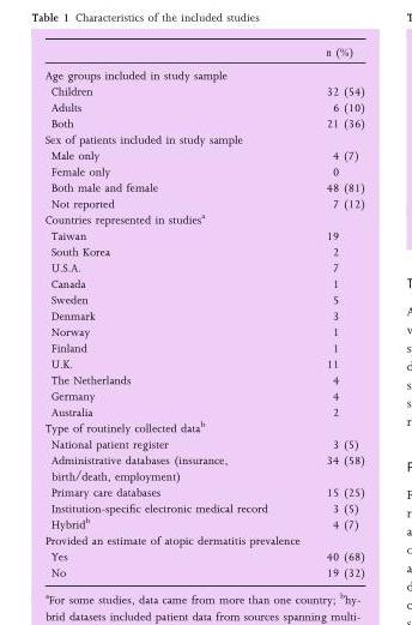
<table><thead><tr><td></td><td>n (%)</td></tr></thead><tbody><tr><td colspan="2">Age groups included in study sample</td></tr><tr><td>Children</td><td>32 (54)</td></tr><tr><td>Adults</td><td>6 (10)</td></tr><tr><td>Both</td><td>21 (36)</td></tr><tr><td colspan="2">Sex of patients included in study sample</td></tr><tr><td>Male only</td><td>4 (7)</td></tr><tr><td>Female only</td><td>0</td></tr><tr><td>Both male and female</td><td>48 (81)</td></tr><tr><td>Not reported</td><td>7 (12)</td></tr><tr><td colspan="2">Countries represented in studies<sup>a</sup></td></tr><tr><td>Taiwan</td><td>19</td></tr><tr><td>South Korea</td><td>2</td></tr><tr><td>U.S.A.</td><td>7</td></tr><tr><td>Canada</td><td>1</td></tr><tr><td>Sweden</td><td>5</td></tr><tr><td>Denmark</td><td>3</td></tr><tr><td>Norway</td><td>1</td></tr><tr><td>Finland</td><td>1</td></tr><tr><td>U.K.</td><td>11</td></tr><tr><td>The Netherlands</td><td>4</td></tr><tr><td>Germany</td><td>4</td></tr><tr><td>Australia</td><td>2</td></tr><tr><td colspan="2">Type of routinely collected data<sup>b</sup></td></tr><tr><td>National patient register</td><td>3 (5)</td></tr><tr><td>Administrative databases (insurance, birth/death, employment)</td><td>34 (58)</td></tr><tr><td>Primary care databases</td><td>15 (25)</td></tr><tr><td>Institution-specific electronic medical record</td><td>3 (5)</td></tr><tr><td>Hybrid<sup>b</sup></td><td>4 (7)</td></tr><tr><td colspan="2">Provided an estimate of atopic dermatitis prevalence</td></tr><tr><td>Yes</td><td>40 (68)</td></tr><tr><td>No</td><td>19 (32)</td></tr></tbody></table>